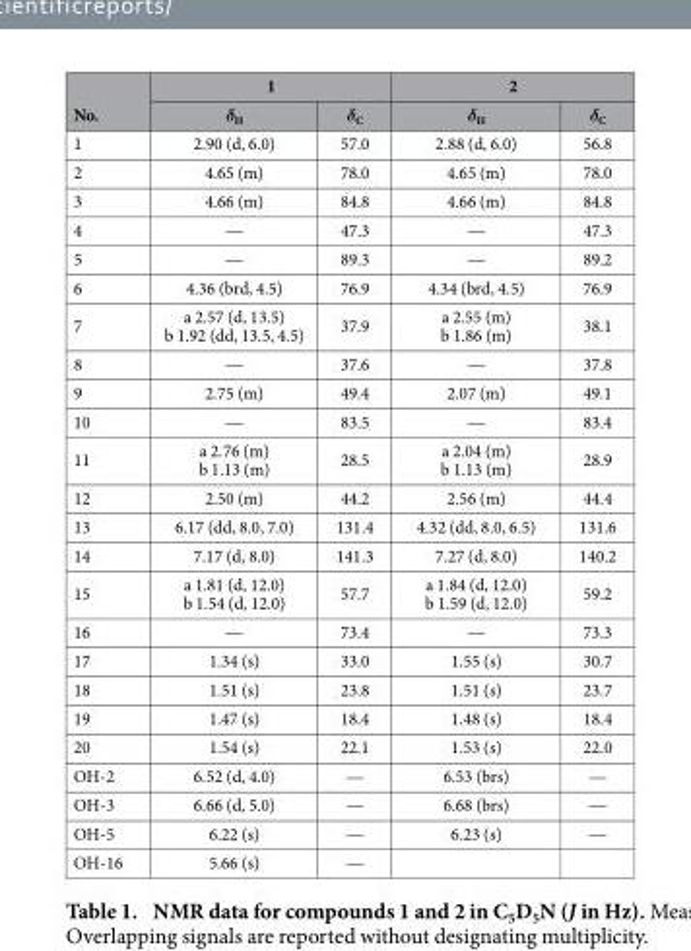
<table><thead><tr><td rowspan="2">No.</td><td colspan="2">1</td><td colspan="2">2</td></tr><tr><td>δ<sub>H</sub></td><td>δ<sub>C</sub></td><td>δ<sub>H</sub></td><td>δ<sub>C</sub></td></tr></thead><tbody><tr><td>1</td><td>2.90 (d, 6.0)</td><td>57.0</td><td>2.88 (d, 6.0)</td><td>56.8</td></tr><tr><td>2</td><td>4.65 (m)</td><td>78.0</td><td>4.65 (m)</td><td>78.0</td></tr><tr><td>3</td><td>4.66 (m)</td><td>84.8</td><td>4.66 (m)</td><td>84.8</td></tr><tr><td>4</td><td>—</td><td>47.3</td><td>—</td><td>47.3</td></tr><tr><td>5</td><td>—</td><td>89.3</td><td>—</td><td>89.2</td></tr><tr><td>6</td><td>4.36 (brd, 4.5)</td><td>76.9</td><td>4.34 (brd, 4.5)</td><td>76.9</td></tr><tr><td>7</td><td>a 2.57 (d, 13.5) b 1.92 (dd, 13.5, 4.5)</td><td>37.9</td><td>a 2.55 (m) b 1.86 (m)</td><td>38.1</td></tr><tr><td>8</td><td>—</td><td>37.6</td><td>—</td><td>37.8</td></tr><tr><td>9</td><td>2.75 (m)</td><td>49.4</td><td>2.07 (m)</td><td>49.1</td></tr><tr><td>10</td><td>—</td><td>83.5</td><td>—</td><td>83.4</td></tr><tr><td>11</td><td>a 2.76 (m) b 1.13 (m)</td><td>28.5</td><td>a 2.04 (m) b 1.13 (m)</td><td>28.9</td></tr><tr><td>12</td><td>2.50 (m)</td><td>44.2</td><td>2.56 (m)</td><td>44.4</td></tr><tr><td>13</td><td>6.17 (dd, 8.0, 7.0)</td><td>131.4</td><td>4.32 (dd, 8.0, 6.5)</td><td>131.6</td></tr><tr><td>14</td><td>7.17 (d, 8.0)</td><td>141.3</td><td>7.27 (d, 8.0)</td><td>140.2</td></tr><tr><td>15</td><td>a 1.81 (d, 12.0) b 1.54 (d, 12.0)</td><td>57.7</td><td>a 1.84 (d, 12.0) b 1.59 (d, 12.0)</td><td>59.2</td></tr><tr><td>16</td><td>—</td><td>73.4</td><td>—</td><td>73.3</td></tr><tr><td>17</td><td>1.34 (s)</td><td>33.0</td><td>1.55 (s)</td><td>30.7</td></tr><tr><td>18</td><td>1.51 (s)</td><td>23.8</td><td>1.51 (s)</td><td>23.7</td></tr><tr><td>19</td><td>1.47 (s)</td><td>18.4</td><td>1.48 (s)</td><td>18.4</td></tr><tr><td>20</td><td>1.54 (s)</td><td>22.1</td><td>1.53 (s)</td><td>22.0</td></tr><tr><td>OH-2</td><td>6.52 (d, 4.0)</td><td>—</td><td>6.53 (brs)</td><td>—</td></tr><tr><td>OH-3</td><td>6.66 (d, 5.0)</td><td>—</td><td>6.68 (brs)</td><td>—</td></tr><tr><td>OH-5</td><td>6.22 (s)</td><td>—</td><td>6.23 (s)</td><td>—</td></tr><tr><td>OH-16</td><td>5.66 (s)</td><td>—</td><td></td><td></td></tr></tbody></table>